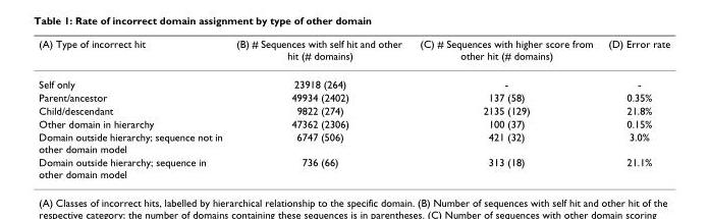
<table><thead><tr><td>(A) Type of incorrect hit</td><td>(B) # Sequences with self hit and other hit (# domains)</td><td>(C) # Sequences with higher score from other hit (# domains)</td><td>(D) Error rate</td></tr></thead><tbody><tr><td>Self only</td><td>23918 (264)</td><td>-</td><td>-</td></tr><tr><td>Parent/ancestor</td><td>49934 (2402)</td><td>137 (58)</td><td>0.35%</td></tr><tr><td>Child/descendant</td><td>9822 (274)</td><td>2135 (129)</td><td>21.8%</td></tr><tr><td>Other domain in hierarchy</td><td>47362 (2306)</td><td>100 (37)</td><td>0.15%</td></tr><tr><td>Domain outside hierarchy; sequence not in other domain model</td><td>6747 (506)</td><td>421 (32)</td><td>3.0%</td></tr><tr><td>Domain outside hierarchy; sequence in other domain model</td><td>736 (66)</td><td>313 (18)</td><td>21.1%</td></tr></tbody></table>